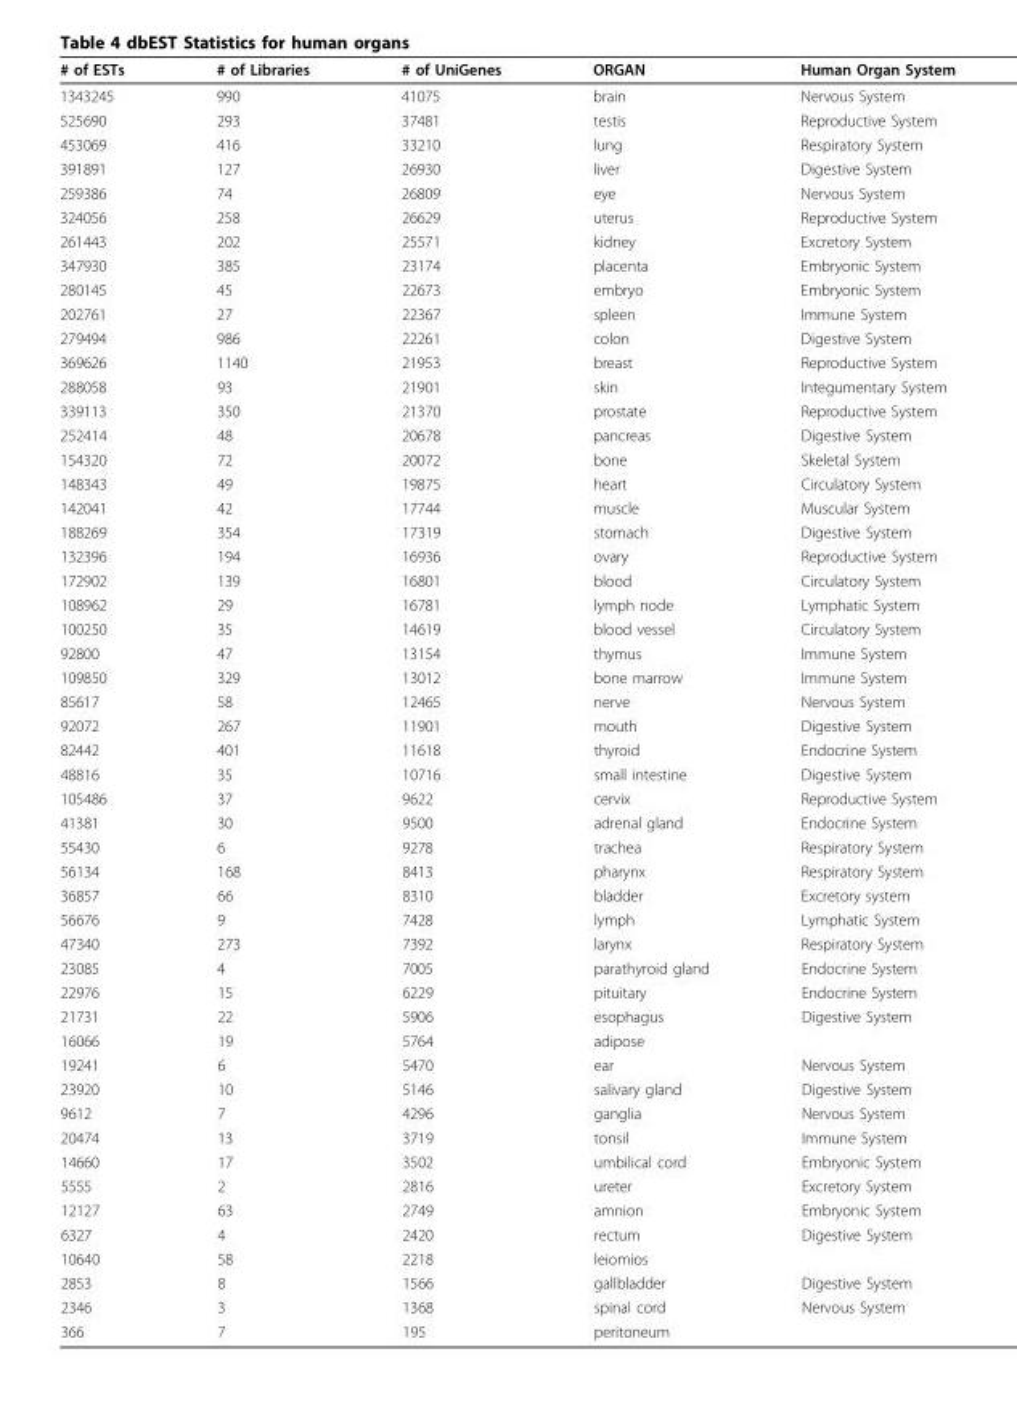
<table><thead><tr><td># of ESTs</td><td># of Libraries</td><td># of UniGenes</td><td>ORGAN</td><td>Human Organ System</td></tr></thead><tbody><tr><td>1343245</td><td>990</td><td>41075</td><td>brain</td><td>Nervous System</td></tr><tr><td>525690</td><td>293</td><td>37481</td><td>testis</td><td>Reproductive System</td></tr><tr><td>453069</td><td>416</td><td>33210</td><td>lung</td><td>Respiratory System</td></tr><tr><td>391891</td><td>127</td><td>26930</td><td>liver</td><td>Digestive System</td></tr><tr><td>259386</td><td>74</td><td>26809</td><td>eye</td><td>Nervous System</td></tr><tr><td>324056</td><td>258</td><td>26629</td><td>uterus</td><td>Reproductive System</td></tr><tr><td>261443</td><td>202</td><td>25571</td><td>kidney</td><td>Excretory System</td></tr><tr><td>347930</td><td>385</td><td>23174</td><td>placenta</td><td>Embryonic System</td></tr><tr><td>280145</td><td>45</td><td>22673</td><td>embryo</td><td>Embryonic System</td></tr><tr><td>202761</td><td>27</td><td>22367</td><td>spleen</td><td>Immune System</td></tr><tr><td>279494</td><td>986</td><td>22261</td><td>colon</td><td>Digestive System</td></tr><tr><td>369626</td><td>1140</td><td>21953</td><td>breast</td><td>Reproductive System</td></tr><tr><td>288058</td><td>93</td><td>21901</td><td>skin</td><td>Integumentary System</td></tr><tr><td>339113</td><td>350</td><td>21370</td><td>prostate</td><td>Reproductive System</td></tr><tr><td>252414</td><td>48</td><td>20678</td><td>pancreas</td><td>Digestive System</td></tr><tr><td>154320</td><td>72</td><td>20072</td><td>bone</td><td>Skeletal System</td></tr><tr><td>148343</td><td>49</td><td>19875</td><td>heart</td><td>Circulatory System</td></tr><tr><td>142041</td><td>42</td><td>17744</td><td>muscle</td><td>Muscular System</td></tr><tr><td>188269</td><td>354</td><td>17319</td><td>stomach</td><td>Digestive System</td></tr><tr><td>132396</td><td>194</td><td>16936</td><td>ovary</td><td>Reproductive System</td></tr><tr><td>172902</td><td>139</td><td>16801</td><td>blood</td><td>Circulatory System</td></tr><tr><td>108962</td><td>29</td><td>16781</td><td>lymph node</td><td>Lymphatic System</td></tr><tr><td>100250</td><td>35</td><td>14619</td><td>blood vessel</td><td>Circulatory System</td></tr><tr><td>92800</td><td>47</td><td>13154</td><td>thymus</td><td>Immune System</td></tr><tr><td>109850</td><td>329</td><td>13012</td><td>bone marrow</td><td>Immune System</td></tr><tr><td>85617</td><td>58</td><td>12465</td><td>nerve</td><td>Nervous System</td></tr><tr><td>92072</td><td>267</td><td>11901</td><td>mouth</td><td>Digestive System</td></tr><tr><td>82442</td><td>401</td><td>11618</td><td>thyroid</td><td>Endocrine System</td></tr><tr><td>48816</td><td>35</td><td>10716</td><td>small intestine</td><td>Digestive System</td></tr><tr><td>105486</td><td>37</td><td>9622</td><td>cervix</td><td>Reproductive System</td></tr><tr><td>41381</td><td>30</td><td>9500</td><td>adrenal gland</td><td>Endocrine System</td></tr><tr><td>55430</td><td>6</td><td>9278</td><td>trachea</td><td>Respiratory System</td></tr><tr><td>56134</td><td>168</td><td>8413</td><td>pharynx</td><td>Respiratory System</td></tr><tr><td>36857</td><td>66</td><td>8310</td><td>bladder</td><td>Excretory system</td></tr><tr><td>56676</td><td>9</td><td>7428</td><td>lymph</td><td>Lymphatic System</td></tr><tr><td>47340</td><td>273</td><td>7392</td><td>larynx</td><td>Respiratory System</td></tr><tr><td>23085</td><td>4</td><td>7005</td><td>parathyroid gland</td><td>Endocrine System</td></tr><tr><td>22976</td><td>15</td><td>6229</td><td>pituitary</td><td>Endocrine System</td></tr><tr><td>21731</td><td>22</td><td>5906</td><td>esophagus</td><td>Digestive System</td></tr><tr><td>16066</td><td>19</td><td>5764</td><td>adipose</td><td></td></tr><tr><td>19241</td><td>6</td><td>5470</td><td>ear</td><td>Nervous System</td></tr><tr><td>23920</td><td>10</td><td>5146</td><td>salivary gland</td><td>Digestive System</td></tr><tr><td>9612</td><td>7</td><td>4296</td><td>ganglia</td><td>Nervous System</td></tr><tr><td>20474</td><td>13</td><td>3719</td><td>tonsil</td><td>Immune System</td></tr><tr><td>14660</td><td>17</td><td>3502</td><td>umbilical cord</td><td>Embryonic System</td></tr><tr><td>5555</td><td>2</td><td>2816</td><td>ureter</td><td>Excretory System</td></tr><tr><td>12127</td><td>63</td><td>2749</td><td>amnion</td><td>Embryonic System</td></tr><tr><td>6327</td><td>4</td><td>2420</td><td>rectum</td><td>Digestive System</td></tr><tr><td>10640</td><td>58</td><td>2218</td><td>leiomios</td><td></td></tr><tr><td>2853</td><td>8</td><td>1566</td><td>gallbladder</td><td>Digestive System</td></tr><tr><td>2346</td><td>3</td><td>1368</td><td>spinal cord</td><td>Nervous System</td></tr><tr><td>366</td><td>7</td><td>195</td><td>peritoneum</td><td></td></tr></tbody></table>